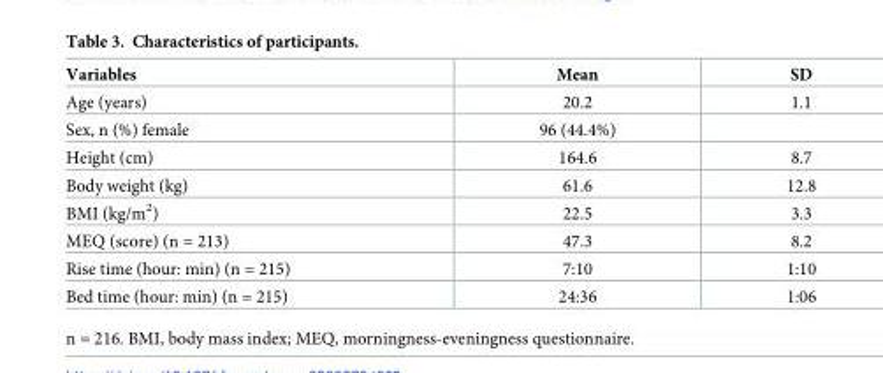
<table><thead><tr><td>Variables</td><td>Mean</td><td>SD</td></tr></thead><tbody><tr><td>Age (years)</td><td>20.2</td><td>1.1</td></tr><tr><td>Sex, n (%) female</td><td>96 (44.4%)</td><td></td></tr><tr><td>Height (cm)</td><td>164.6</td><td>8.7</td></tr><tr><td>Body weight (kg)</td><td>61.6</td><td>12.8</td></tr><tr><td>BMI (kg/m<sup>2</sup>)</td><td>22.5</td><td>3.3</td></tr><tr><td>MEQ (score) (n = 213)</td><td>47.3</td><td>8.2</td></tr><tr><td>Rise time (hour: min) (n = 215)</td><td>7:10</td><td>1:10</td></tr><tr><td>Bed time (hour: min) (n = 215)</td><td>24:36</td><td>1:06</td></tr></tbody></table>